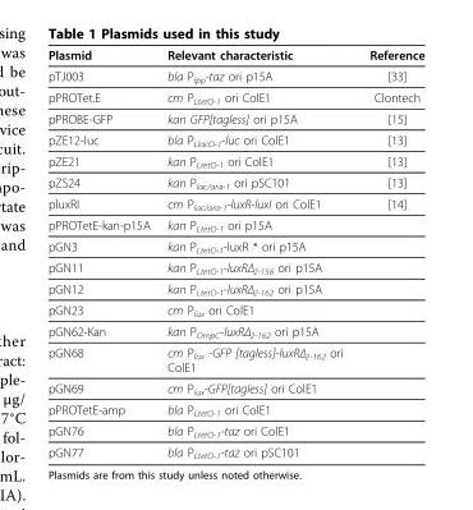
<table><thead><tr><td>Plasmid</td><td>Relevant characteristic</td><td>Reference</td></tr></thead><tbody><tr><td>pTJ003</td><td>bla P<sub>lpp</sub>-taz ori p15A</td><td>[33]</td></tr><tr><td>pPROTet.E</td><td>cm P<sub>LtetO-1</sub> ori ColE1</td><td>Clontech</td></tr><tr><td>pPROBE-GFP</td><td>kan GFP[tagless] ori p15A</td><td>[15]</td></tr><tr><td>pZE12-luc</td><td>bla P<sub>LlacO-1</sub>-luc ori ColE1</td><td>[13]</td></tr><tr><td>pZE21</td><td>kan P<sub>LtetO-1</sub> ori ColE1</td><td>[13]</td></tr><tr><td>pZS24</td><td>kan P<sub>lac/ara-1</sub> ori pSC101</td><td>[13]</td></tr><tr><td>pluxRI</td><td>cm P<sub>lac/ara-1</sub>-luxR-luxI ori ColE1</td><td>[14]</td></tr><tr><td>pPROTetE-kan-p15A</td><td>kan P<sub>LtetO-1</sub> ori p15A</td><td></td></tr><tr><td>pGN3</td><td>kan P<sub>LtetO-1</sub>-luxR * ori p15A</td><td></td></tr><tr><td>pGN11</td><td>kan P<sub>LtetO-1</sub>-luxRΔ<sub>2-156</sub> ori p15A</td><td></td></tr><tr><td>pGN12</td><td>kan P<sub>LtetO-1</sub>-luxRΔ<sub>2-162</sub> ori p15A</td><td></td></tr><tr><td>pGN23</td><td>cm P<sub>lux</sub> ori ColE1</td><td></td></tr><tr><td>pGN62-Kan</td><td>kan P<sub>OmpC</sub>-luxRΔ<sub>2-162</sub> ori p15A</td><td></td></tr><tr><td>pGN68</td><td>cm P<sub>lux</sub> -GFP [tagless]-luxRΔ<sub>2-162</sub> ori ColE1</td><td></td></tr><tr><td>pGN69</td><td>cm P<sub>lux</sub>-GFP[tagless] ori ColE1</td><td></td></tr><tr><td>pPROTetE-amp</td><td>bla P<sub>LtetO-1</sub> ori ColE1</td><td></td></tr><tr><td>pGN76</td><td>bla P<sub>LtetO-1</sub>-taz ori ColE1</td><td></td></tr><tr><td>pGN77</td><td>bla P<sub>LtetO-1</sub>-taz ori pSC101</td><td></td></tr></tbody></table>